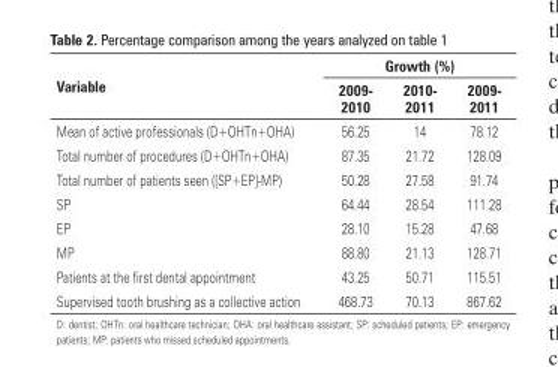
<table><thead><tr><td rowspan="2">Variable</td><td colspan="3">Growth (%)</td></tr><tr><td>2009- 2010</td><td>2010- 2011</td><td>2009- 2011</td></tr></thead><tbody><tr><td>Mean of active professionals (D+OHTn+OHA)</td><td>56.25</td><td>14</td><td>78.12</td></tr><tr><td>Total number of procedures (D+OHTn+OHA)</td><td>87.35</td><td>21.72</td><td>128.09</td></tr><tr><td>Total number of patients seen ([SP+EP]-MP)</td><td>50.28</td><td>27.58</td><td>91.74</td></tr><tr><td>SP</td><td>64.44</td><td>28.54</td><td>111.28</td></tr><tr><td>EP</td><td>28.10</td><td>15.28</td><td>47.68</td></tr><tr><td>MP</td><td>88.80</td><td>21.13</td><td>128.71</td></tr><tr><td>Patients at the first dental appointment</td><td>43.25</td><td>50.71</td><td>115.51</td></tr><tr><td>Supervised tooth brushing as a collective action</td><td>468.73</td><td>70.13</td><td>867.62</td></tr></tbody></table>